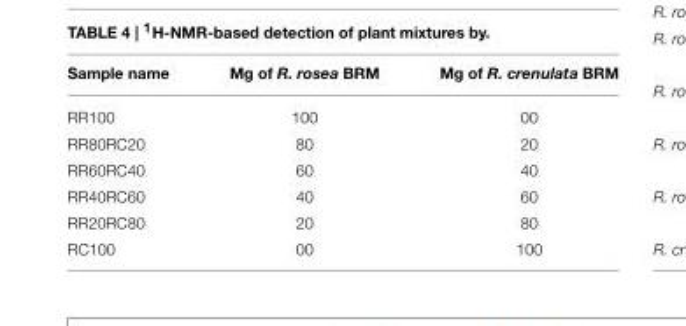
<table><thead><tr><td>Sample name</td><td>Mg of R. rosea BRM</td><td>Mg of R. crenulata BRM</td></tr></thead><tbody><tr><td>RR100</td><td>100</td><td>00</td></tr><tr><td>RR80RC20</td><td>80</td><td>20</td></tr><tr><td>RR60RC40</td><td>60</td><td>40</td></tr><tr><td>RR40RC60</td><td>40</td><td>60</td></tr><tr><td>RR20RC80</td><td>20</td><td>80</td></tr><tr><td>RC100</td><td>00</td><td>100</td></tr></tbody></table>